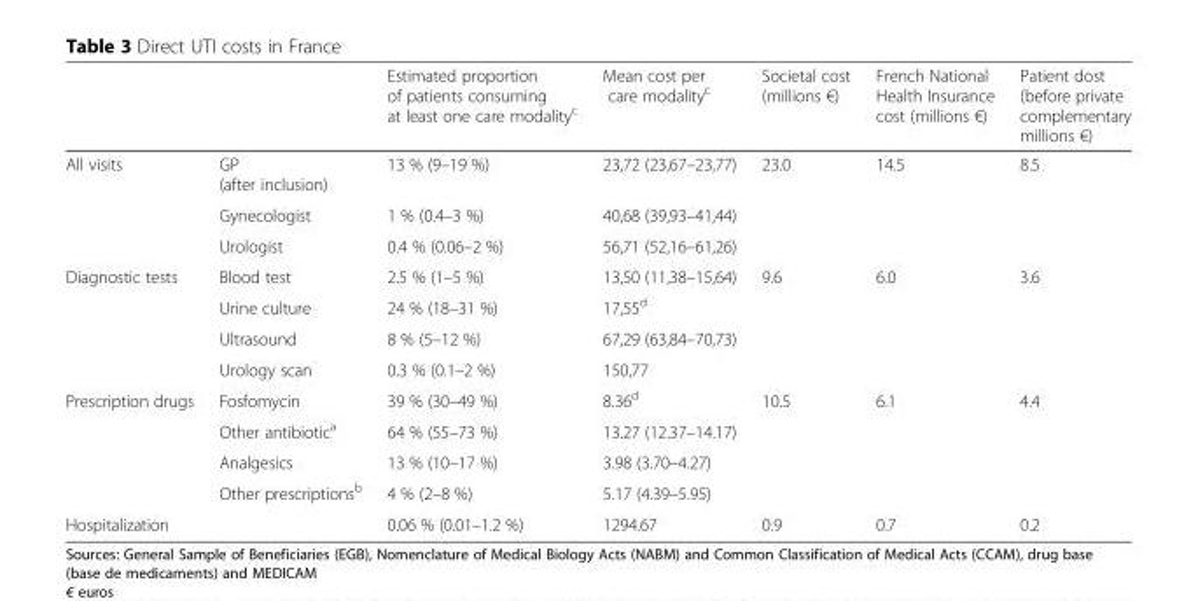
<table><thead><tr><td></td><td></td><td>Estimated proportion of patients consuming at least one care modality<sup>c</sup></td><td>Mean cost per care modality<sup>c</sup></td><td>Societal cost (millions €)</td><td>French National Health Insurance cost (millions €)</td><td>Patient dost (before private complementary millions €)</td></tr></thead><tbody><tr><td rowspan="3">All visits</td><td>GP (after inclusion)</td><td>13 % (9–19 %)</td><td>23,72 (23,67–23,77)</td><td rowspan="3">23.0</td><td rowspan="3">14.5</td><td rowspan="3">8.5</td></tr><tr><td>Gynecologist</td><td>1 % (0.4–3 %)</td><td>40,68 (39,93–41,44)</td></tr><tr><td>Urologist</td><td>0.4 % (0.06–2 %)</td><td>56,71 (52,16–61,26)</td></tr><tr><td rowspan="4">Diagnostic tests</td><td>Blood test</td><td>2.5 % (1–5 %)</td><td>13,50 (11,38–15,64)</td><td rowspan="4">9.6</td><td rowspan="4">6.0</td><td rowspan="4">3.6</td></tr><tr><td>Urine culture</td><td>24 % (18–31 %)</td><td>17,55<sup>d</sup></td></tr><tr><td>Ultrasound</td><td>8 % (5–12 %)</td><td>67,29 (63,84–70,73)</td></tr><tr><td>Urology scan</td><td>0.3 % (0.1–2 %)</td><td>150,77</td></tr><tr><td rowspan="4">Prescription drugs</td><td>Fosfomycin</td><td>39 % (30–49 %)</td><td>8.36<sup>d</sup></td><td rowspan="4">10.5</td><td rowspan="4">6.1</td><td rowspan="4">4.4</td></tr><tr><td>Other antibiotic<sup>a</sup></td><td>64 % (55–73 %)</td><td>13.27 (12.37–14.17)</td></tr><tr><td>Analgesics</td><td>13 % (10–17 %)</td><td>3.98 (3.70–4.27)</td></tr><tr><td>Other prescriptions<sup>b</sup></td><td>4 % (2–8 %)</td><td>5.17 (4.39–5.95)</td></tr><tr><td>Hospitalization</td><td></td><td>0.06 % (0.01–1.2 %)</td><td>1294.67</td><td>0.9</td><td>0.7</td><td>0.2</td></tr></tbody></table>